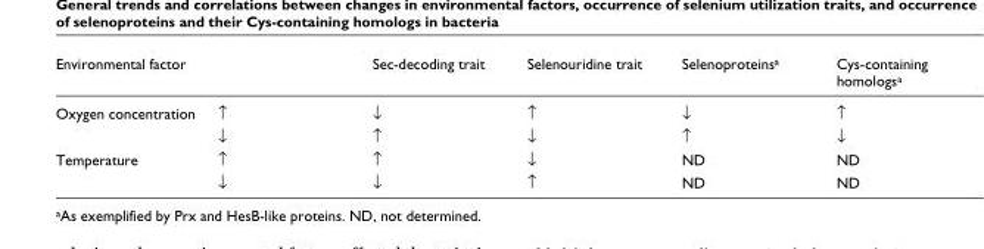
<table><thead><tr><td colspan="2">Environmental factor</td><td rowspan="2">Sec-decoding trait ↓</td><td rowspan="2">Selenouridine trait ↑</td><td rowspan="2">Selenoproteinsa ↓</td><td rowspan="2">Cys-containing homologsa ↑</td></tr><tr><td>Oxygen concentration</td><td>↑</td></tr></thead><tbody><tr><td></td><td>↓</td><td>↑</td><td>↓</td><td>↑</td><td>↓</td></tr><tr><td rowspan="2">Temperature</td><td>↑</td><td>↑</td><td>↓</td><td>ND</td><td>ND</td></tr><tr><td>↓</td><td>↓</td><td>↑</td><td>ND</td><td>ND</td></tr></tbody></table>